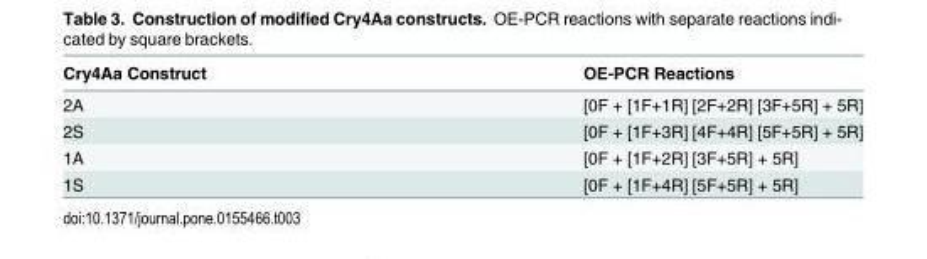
<table><thead><tr><td>Cry4Aa Construct</td><td>OE-PCR Reactions</td></tr></thead><tbody><tr><td>2A</td><td>[0F + [1F+1R] [2F+2R] [3F+5R] + 5R]</td></tr><tr><td>2S</td><td>[0F + [1F+3R] [4F+4R] [5F+5R] + 5R]</td></tr><tr><td>1A</td><td>[0F + [1F+2R] [3F+5R] + 5R]</td></tr><tr><td>1S</td><td>[0F + [1F+4R] [5F+5R] + 5R]</td></tr></tbody></table>